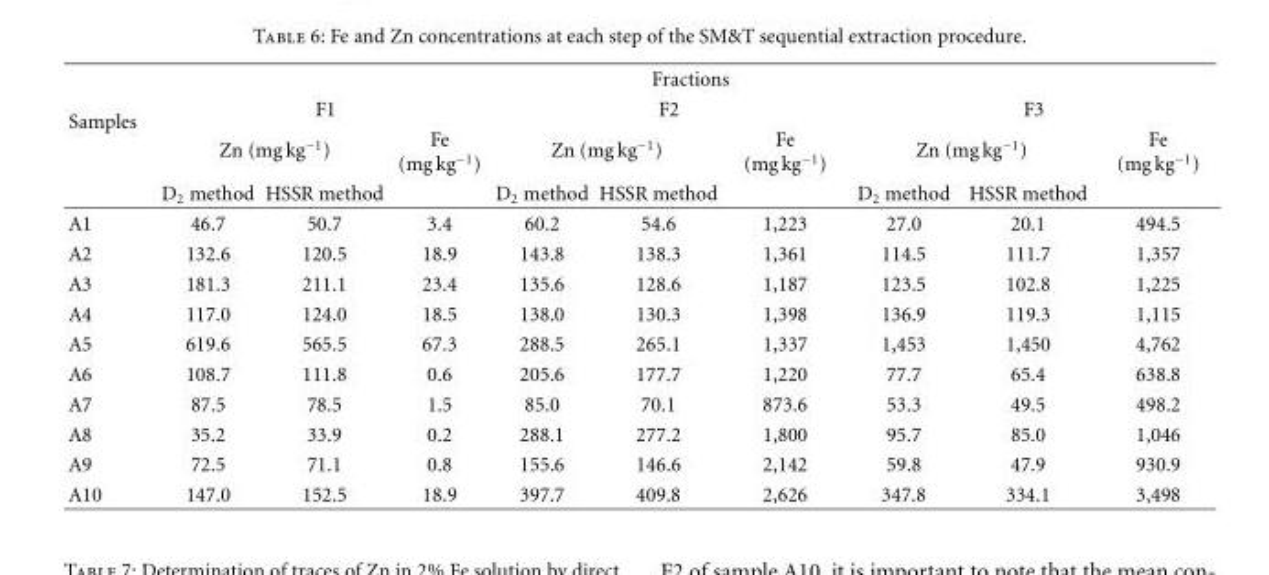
<table><thead><tr><td rowspan="4">Samples</td><td colspan="9">Fractions</td></tr><tr><td colspan="3">F1</td><td colspan="3">F2</td><td colspan="3">F3</td></tr><tr><td colspan="2">Zn (mg kg<sup>−1</sup>)</td><td rowspan="2">Fe (mg kg<sup>−1</sup>)</td><td colspan="2">Zn (mg kg<sup>−1</sup>)</td><td rowspan="2">Fe (mg kg<sup>−1</sup>)</td><td colspan="2">Zn (mg kg<sup>−1</sup>)</td><td rowspan="2">Fe (mg kg<sup>−1</sup>)</td></tr><tr><td>D<sub>2</sub> method</td><td>HSSR method</td><td>D<sub>2</sub> method</td><td>HSSR method</td><td>D<sub>2</sub> method</td><td>HSSR method</td></tr></thead><tbody><tr><td>A1</td><td>46.7</td><td>50.7</td><td>3.4</td><td>60.2</td><td>54.6</td><td>1,223</td><td>27.0</td><td>20.1</td><td>494.5</td></tr><tr><td>A2</td><td>132.6</td><td>120.5</td><td>18.9</td><td>143.8</td><td>138.3</td><td>1,361</td><td>114.5</td><td>111.7</td><td>1,357</td></tr><tr><td>A3</td><td>181.3</td><td>211.1</td><td>23.4</td><td>135.6</td><td>128.6</td><td>1,187</td><td>123.5</td><td>102.8</td><td>1,225</td></tr><tr><td>A4</td><td>117.0</td><td>124.0</td><td>18.5</td><td>138.0</td><td>130.3</td><td>1,398</td><td>136.9</td><td>119.3</td><td>1,115</td></tr><tr><td>A5</td><td>619.6</td><td>565.5</td><td>67.3</td><td>288.5</td><td>265.1</td><td>1,337</td><td>1,453</td><td>1,450</td><td>4,762</td></tr><tr><td>A6</td><td>108.7</td><td>111.8</td><td>0.6</td><td>205.6</td><td>177.7</td><td>1,220</td><td>77.7</td><td>65.4</td><td>638.8</td></tr><tr><td>A7</td><td>87.5</td><td>78.5</td><td>1.5</td><td>85.0</td><td>70.1</td><td>873.6</td><td>53.3</td><td>49.5</td><td>498.2</td></tr><tr><td>A8</td><td>35.2</td><td>33.9</td><td>0.2</td><td>288.1</td><td>277.2</td><td>1,800</td><td>95.7</td><td>85.0</td><td>1,046</td></tr><tr><td>A9</td><td>72.5</td><td>71.1</td><td>0.8</td><td>155.6</td><td>146.6</td><td>2,142</td><td>59.8</td><td>47.9</td><td>930.9</td></tr><tr><td>A10</td><td>147.0</td><td>152.5</td><td>18.9</td><td>397.7</td><td>409.8</td><td>2,626</td><td>347.8</td><td>334.1</td><td>3,498</td></tr></tbody></table>